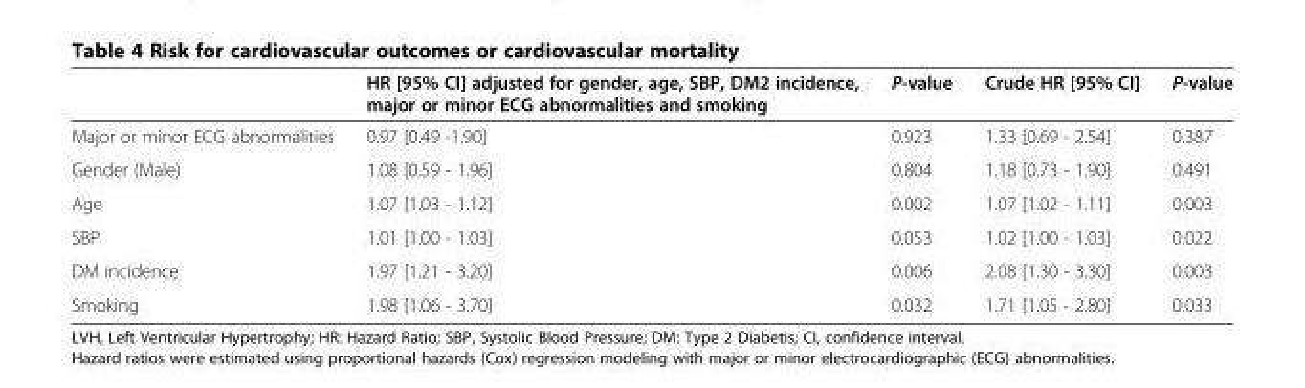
<table><thead><tr><td></td><td>HR [95% CI] adjusted for gender, age, SBP, DM2 incidence, major or minor ECG abnormalities and smoking</td><td>P-value</td><td>Crude HR [95% CI]</td><td>P-value</td></tr></thead><tbody><tr><td>Major or minor ECG abnormalities</td><td>0.97 [0.49 -1.90]</td><td>0.923</td><td>1.33 [0.69 - 2.54]</td><td>0.387</td></tr><tr><td>Gender (Male)</td><td>1.08 [0.59 - 1.96]</td><td>0.804</td><td>1.18 [0.73 - 1.90]</td><td>0.491</td></tr><tr><td>Age</td><td>1.07 [1.03 - 1.12]</td><td>0.002</td><td>1.07 [1.02 - 1.11]</td><td>0.003</td></tr><tr><td>SBP</td><td>1.01 [1.00 - 1.03]</td><td>0.053</td><td>1.02 [1.00 - 1.03]</td><td>0.022</td></tr><tr><td>DM incidence</td><td>1.97 [1.21 - 3.20]</td><td>0.006</td><td>2.08 [1.30 - 3.30]</td><td>0.003</td></tr><tr><td>Smoking</td><td>1.98 [1.06 - 3.70]</td><td>0.032</td><td>1.71 [1.05 - 2.80]</td><td>0.033</td></tr></tbody></table>